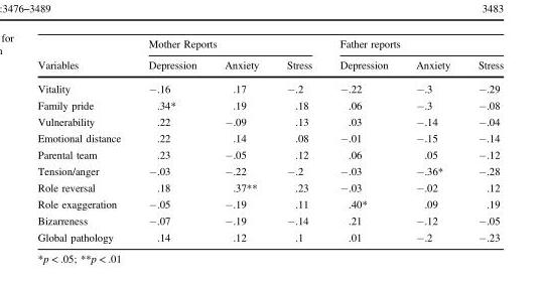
<table><thead><tr><td rowspan="2">Variables</td><td colspan="3">Mother Reports</td><td colspan="3">Father reports</td></tr><tr><td>Depression</td><td>Anxiety</td><td>Stress</td><td>Depression</td><td>Anxiety</td><td>Stress</td></tr></thead><tbody><tr><td>Vitality</td><td>−.16</td><td>.17</td><td>−.2</td><td>−.22</td><td>−.3</td><td>−.29</td></tr><tr><td>Family pride</td><td>.34*</td><td>.19</td><td>.18</td><td>.06</td><td>−.3</td><td>−.08</td></tr><tr><td>Vulnerability</td><td>.22</td><td>−.09</td><td>.13</td><td>.03</td><td>−.14</td><td>−.04</td></tr><tr><td>Emotional distance</td><td>.22</td><td>.14</td><td>.08</td><td>−.01</td><td>−.15</td><td>−.14</td></tr><tr><td>Parental team</td><td>.23</td><td>−.05</td><td>.12</td><td>.06</td><td>.05</td><td>−.12</td></tr><tr><td>Tension/anger</td><td>−.03</td><td>−.22</td><td>−.2</td><td>−.03</td><td>−.36*</td><td>−.28</td></tr><tr><td>Role reversal</td><td>.18</td><td>.37**</td><td>.23</td><td>−.03</td><td>−.02</td><td>.12</td></tr><tr><td>Role exaggeration</td><td>−.05</td><td>−.19</td><td>.11</td><td>.40*</td><td>.09</td><td>.19</td></tr><tr><td>Bizarreness</td><td>−.07</td><td>−.19</td><td>−.14</td><td>.21</td><td>−.12</td><td>−.05</td></tr><tr><td>Global pathology</td><td>.14</td><td>.12</td><td>.1</td><td>.01</td><td>−.2</td><td>−.23</td></tr></tbody></table>